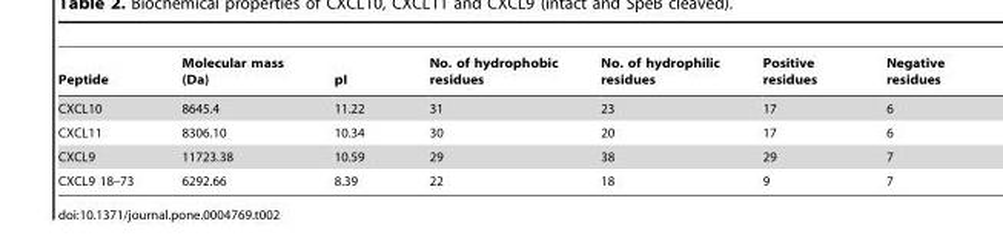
<table><thead><tr><td>Peptide</td><td>Molecular mass (Da)</td><td>pI</td><td>No. of hydrophobic residues</td><td>No. of hydrophilic residues</td><td>Positive residues</td><td>Negative residues</td></tr></thead><tbody><tr><td>CXCL10</td><td>8645.4</td><td>11.22</td><td>31</td><td>23</td><td>17</td><td>6</td></tr><tr><td>CXCL11</td><td>8306.10</td><td>10.34</td><td>30</td><td>20</td><td>17</td><td>6</td></tr><tr><td>CXCL9</td><td>11723.38</td><td>10.59</td><td>29</td><td>38</td><td>29</td><td>7</td></tr><tr><td>CXCL9 18–73</td><td>6292.66</td><td>8.39</td><td>22</td><td>18</td><td>9</td><td>7</td></tr></tbody></table>